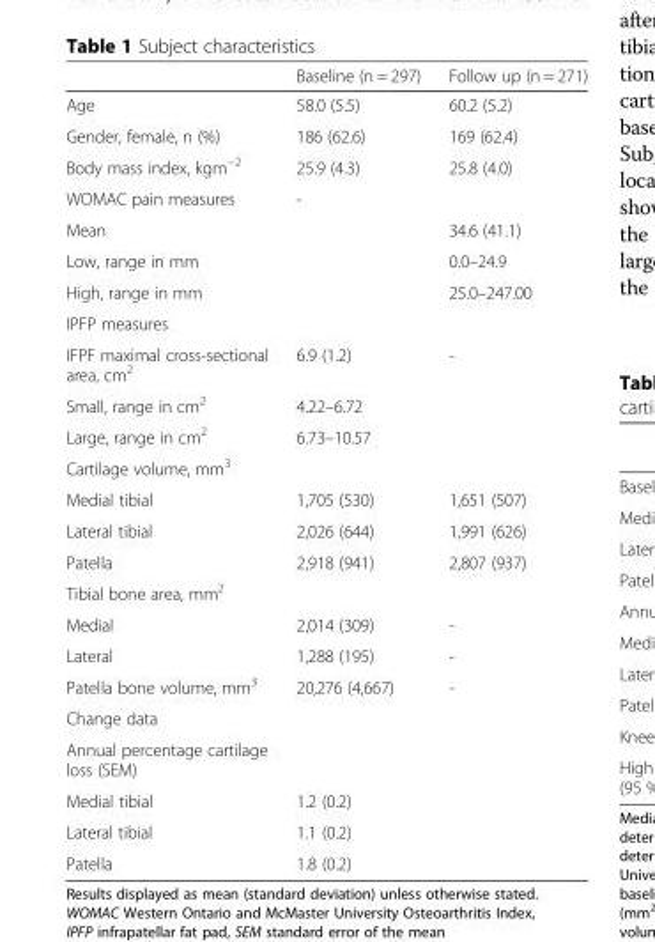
<table><thead><tr><td></td><td>Baseline (n = 297)</td><td>Follow up (n = 271)</td></tr></thead><tbody><tr><td>Age</td><td>58.0 (5.5)</td><td>60.2 (5.2)</td></tr><tr><td>Gender, female, n (%)</td><td>186 (62.6)</td><td>169 (62.4)</td></tr><tr><td>Body mass index, kgm<sup>−2</sup></td><td>25.9 (4.3)</td><td>25.8 (4.0)</td></tr><tr><td>WOMAC pain measures</td><td>-</td><td></td></tr><tr><td>Mean</td><td></td><td>34.6 (41.1)</td></tr><tr><td>Low, range in mm</td><td></td><td>0.0–24.9</td></tr><tr><td>High, range in mm</td><td></td><td>25.0–247.00</td></tr><tr><td colspan="3">IPFP measures</td></tr><tr><td>IFPF maximal cross-sectional area, cm<sup>2</sup></td><td>6.9 (1.2)</td><td>-</td></tr><tr><td>Small, range in cm<sup>2</sup></td><td>4.22–6.72</td><td></td></tr><tr><td>Large, range in cm<sup>2</sup></td><td>6.73–10.57</td><td></td></tr><tr><td colspan="3">Cartilage volume, mm<sup>3</sup></td></tr><tr><td>Medial tibial</td><td>1,705 (530)</td><td>1,651 (507)</td></tr><tr><td>Lateral tibial</td><td>2,026 (644)</td><td>1,991 (626)</td></tr><tr><td>Patella</td><td>2,918 (941)</td><td>2,807 (937)</td></tr><tr><td colspan="3">Tibial bone area, mm<sup>2</sup></td></tr><tr><td>Medial</td><td>2,014 (309)</td><td>-</td></tr><tr><td>Lateral</td><td>1,288 (195)</td><td>-</td></tr><tr><td>Patella bone volume, mm<sup>3</sup></td><td>20,276 (4,667)</td><td>-</td></tr><tr><td colspan="3">Change data</td></tr><tr><td colspan="3">Annual percentage cartilage loss (SEM)</td></tr><tr><td>Medial tibial</td><td colspan="2">1.2 (0.2)</td></tr><tr><td>Lateral tibial</td><td colspan="2">1.1 (0.2)</td></tr><tr><td>Patella</td><td colspan="2">1.8 (0.2)</td></tr></tbody></table>